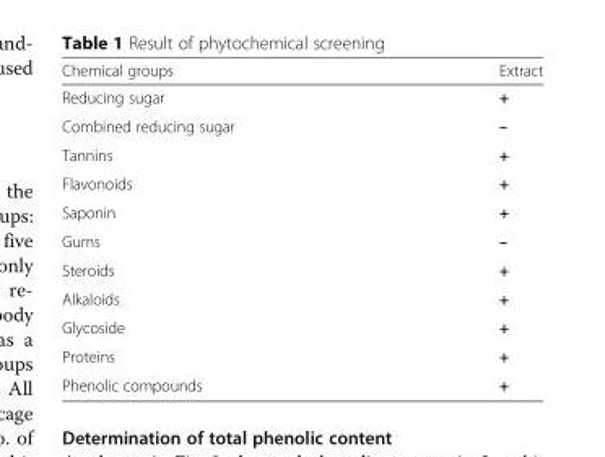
<table><thead><tr><td>Chemical groups</td><td>Extract</td></tr></thead><tbody><tr><td>Reducing sugar</td><td>+</td></tr><tr><td>Combined reducing sugar</td><td>–</td></tr><tr><td>Tannins</td><td>+</td></tr><tr><td>Flavonoids</td><td>+</td></tr><tr><td>Saponin</td><td>+</td></tr><tr><td>Gums</td><td>–</td></tr><tr><td>Steroids</td><td>+</td></tr><tr><td>Alkaloids</td><td>+</td></tr><tr><td>Glycoside</td><td>+</td></tr><tr><td>Proteins</td><td>+</td></tr><tr><td>Phenolic compounds</td><td>+</td></tr></tbody></table>